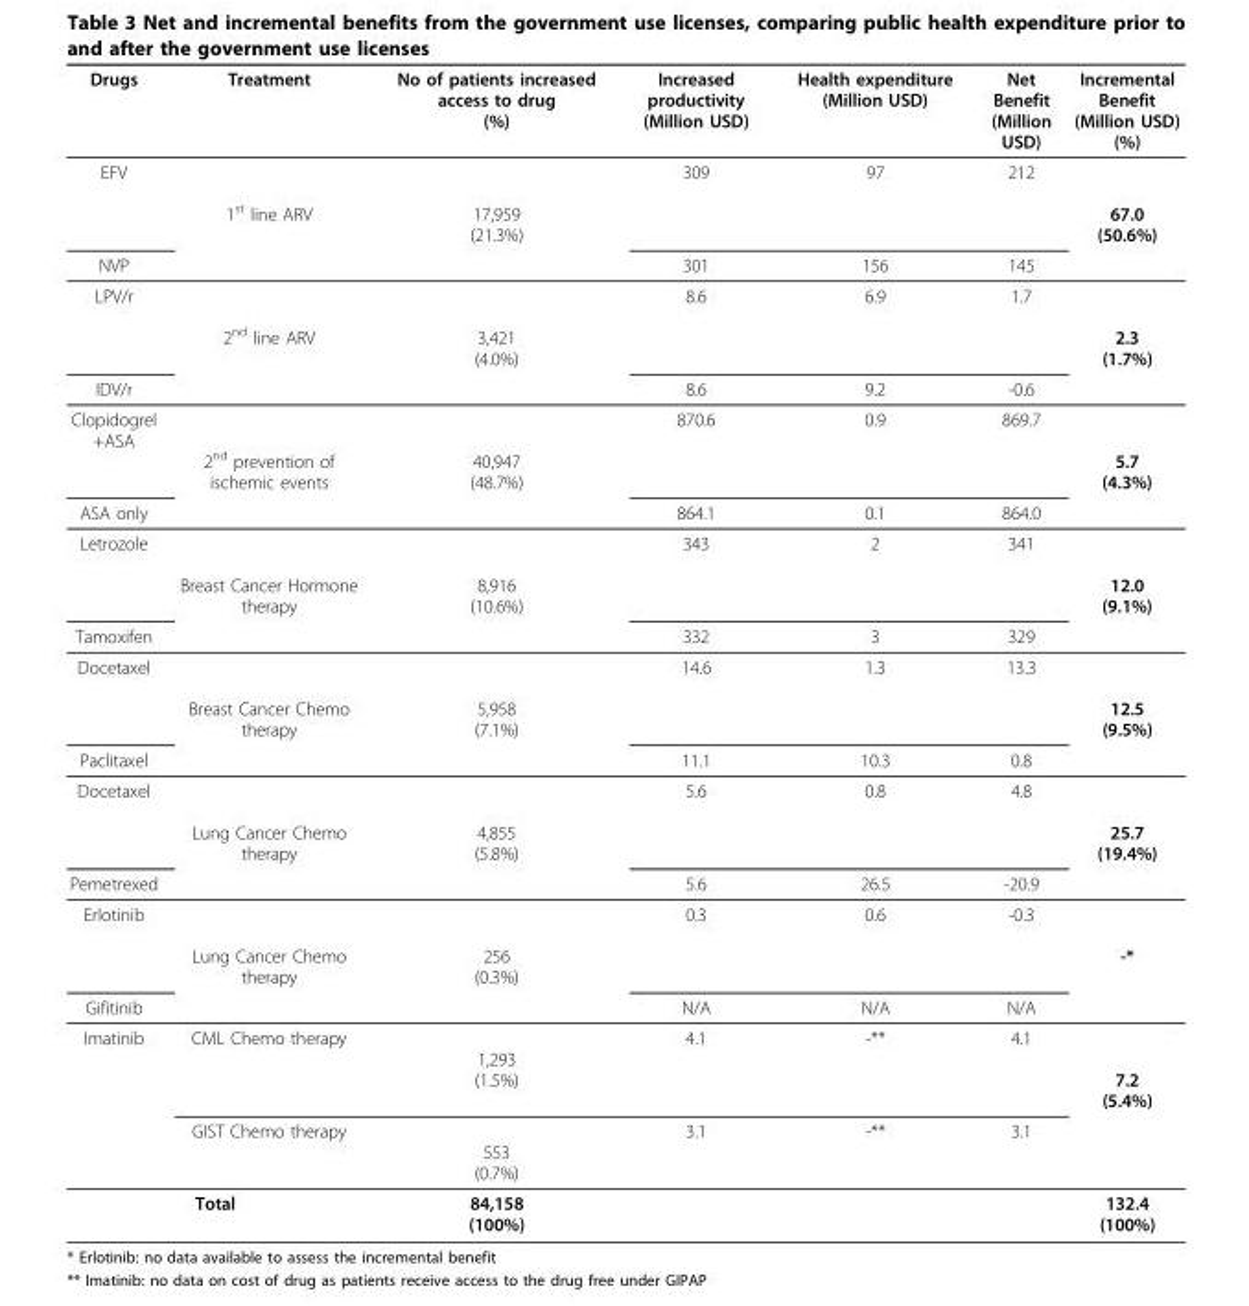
<table><thead><tr><td>Drugs</td><td>Treatment</td><td>No of patients increased access to drug (%)</td><td>Increased productivity (Million USD)</td><td>Health expenditure (Million USD)</td><td>Net Benefit (Million USD)</td><td>Incremental Benefit (Million USD) (%)</td></tr></thead><tbody><tr><td>EFV</td><td>1<sup>st</sup> line ARV</td><td>17,959 (21.3%)</td><td>309</td><td>97</td><td>212</td><td>67.0 (50.6%)</td></tr><tr><td>NVP</td><td></td><td></td><td>301</td><td>156</td><td>145</td><td></td></tr><tr><td>LPV/r</td><td>2<sup>nd</sup> line ARV</td><td>3,421 (4.0%)</td><td>8.6</td><td>6.9</td><td>1.7</td><td>2.3 (1.7%)</td></tr><tr><td>IDV/r</td><td></td><td></td><td>8.6</td><td>9.2</td><td>-0.6</td><td></td></tr><tr><td>Clopidogrel +ASA</td><td>2<sup>nd</sup> prevention of ischemic events</td><td>40,947 (48.7%)</td><td>870.6</td><td>0.9</td><td>869.7</td><td>5.7 (4.3%)</td></tr><tr><td>ASA only</td><td></td><td></td><td>864.1</td><td>0.1</td><td>864.0</td><td></td></tr><tr><td>Letrozole</td><td>Breast Cancer Hormone therapy</td><td>8,916 (10.6%)</td><td>343</td><td>2</td><td>341</td><td>12.0 (9.1%)</td></tr><tr><td>Tamoxifen</td><td></td><td></td><td>332</td><td>3</td><td>329</td><td></td></tr><tr><td>Docetaxel</td><td>Breast Cancer Chemo therapy</td><td>5,958 (7.1%)</td><td>14.6</td><td>1.3</td><td>13.3</td><td>12.5 (9.5%)</td></tr><tr><td>Paclitaxel</td><td></td><td></td><td>11.1</td><td>10.3</td><td>0.8</td><td></td></tr><tr><td>Docetaxel</td><td>Lung Cancer Chemo therapy</td><td>4,855 (5.8%)</td><td>5.6</td><td>0.8</td><td>4.8</td><td>25.7 (19.4%)</td></tr><tr><td>Pemetrexed</td><td></td><td></td><td>5.6</td><td>26.5</td><td>-20.9</td><td></td></tr><tr><td>Erlotinib</td><td>Lung Cancer Chemo therapy</td><td>256 (0.3%)</td><td>0.3</td><td>0.6</td><td>-0.3</td><td>-*</td></tr><tr><td>Gifitinib</td><td></td><td></td><td>N/A</td><td>N/A</td><td>N/A</td><td></td></tr><tr><td rowspan="2">Imatinib</td><td>CML Chemo therapy</td><td>1,293 (1.5%)</td><td>4.1</td><td>-**</td><td>4.1</td><td>7.2 (5.4%)</td></tr><tr><td>GIST Chemo therapy</td><td>553 (0.7%)</td><td>3.1</td><td>-**</td><td>3.1</td><td></td></tr><tr><td colspan="2">Total</td><td>84,158 (100%)</td><td></td><td></td><td></td><td>132.4 (100%)</td></tr></tbody></table>